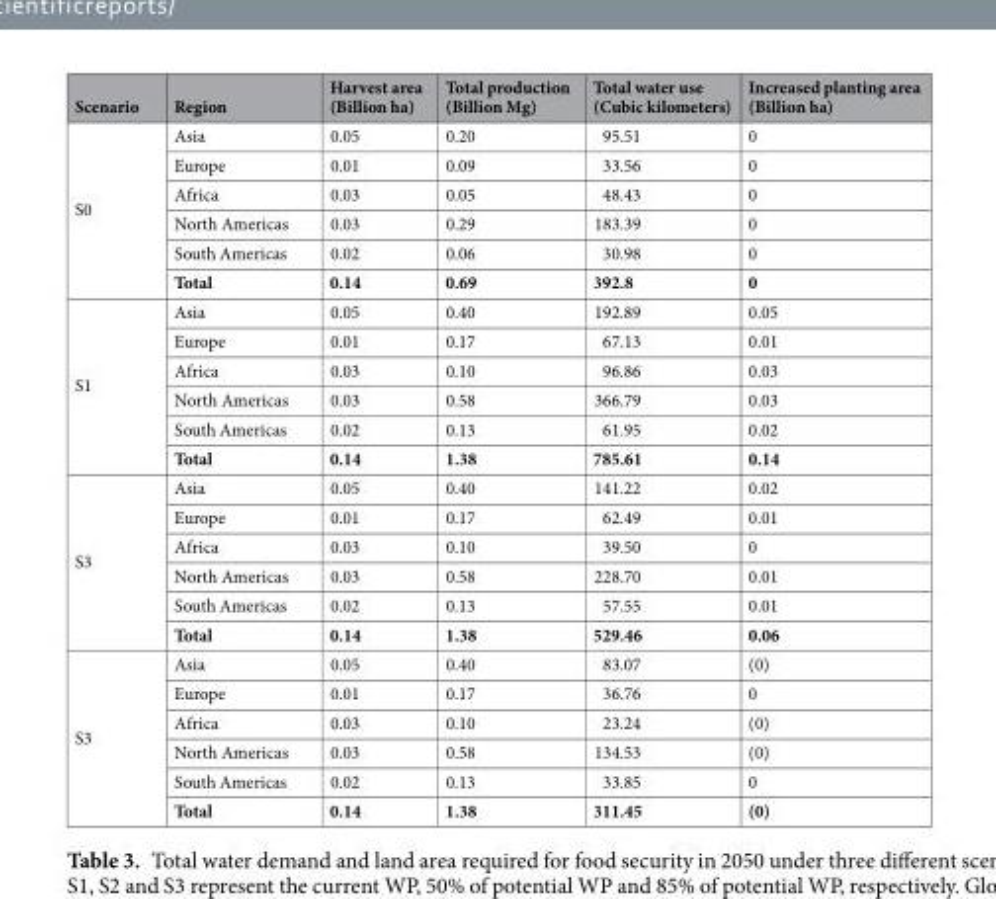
<table><thead><tr><td>Scenario</td><td>Region</td><td>Harvest area (Billion ha)</td><td>Total production (Billion Mg)</td><td>Total water use (Cubic kilometers)</td><td>Increased planting area (Billion ha)</td></tr></thead><tbody><tr><td rowspan="6">S0</td><td>Asia</td><td>0.05</td><td>0.20</td><td>95.51</td><td>0</td></tr><tr><td>Europe</td><td>0.01</td><td>0.09</td><td>33.56</td><td>0</td></tr><tr><td>Africa</td><td>0.03</td><td>0.05</td><td>48.43</td><td>0</td></tr><tr><td>North Americas</td><td>0.03</td><td>0.29</td><td>183.39</td><td>0</td></tr><tr><td>South Americas</td><td>0.02</td><td>0.06</td><td>30.98</td><td>0</td></tr><tr><td>Total</td><td>0.14</td><td>0.69</td><td>392.8</td><td>0</td></tr><tr><td rowspan="6">S1</td><td>Asia</td><td>0.05</td><td>0.40</td><td>192.89</td><td>0.05</td></tr><tr><td>Europe</td><td>0.01</td><td>0.17</td><td>67.13</td><td>0.01</td></tr><tr><td>Africa</td><td>0.03</td><td>0.10</td><td>96.86</td><td>0.03</td></tr><tr><td>North Americas</td><td>0.03</td><td>0.58</td><td>366.79</td><td>0.03</td></tr><tr><td>South Americas</td><td>0.02</td><td>0.13</td><td>61.95</td><td>0.02</td></tr><tr><td>Total</td><td>0.14</td><td>1.38</td><td>785.61</td><td>0.14</td></tr><tr><td rowspan="6">S3</td><td>Asia</td><td>0.05</td><td>0.40</td><td>141.22</td><td>0.02</td></tr><tr><td>Europe</td><td>0.01</td><td>0.17</td><td>62.49</td><td>0.01</td></tr><tr><td>Africa</td><td>0.03</td><td>0.10</td><td>39.50</td><td>0</td></tr><tr><td>North Americas</td><td>0.03</td><td>0.58</td><td>228.70</td><td>0.01</td></tr><tr><td>South Americas</td><td>0.02</td><td>0.13</td><td>57.55</td><td>0.01</td></tr><tr><td>Total</td><td>0.14</td><td>1.38</td><td>529.46</td><td>0.06</td></tr><tr><td rowspan="6">S3</td><td>Asia</td><td>0.05</td><td>0.40</td><td>83.07</td><td>(0)</td></tr><tr><td>Europe</td><td>0.01</td><td>0.17</td><td>36.76</td><td>0</td></tr><tr><td>Africa</td><td>0.03</td><td>0.10</td><td>23.24</td><td>(0)</td></tr><tr><td>North Americas</td><td>0.03</td><td>0.58</td><td>134.53</td><td>(0)</td></tr><tr><td>South Americas</td><td>0.02</td><td>0.13</td><td>33.85</td><td>0</td></tr><tr><td>Total</td><td>0.14</td><td>1.38</td><td>311.45</td><td>(0)</td></tr></tbody></table>